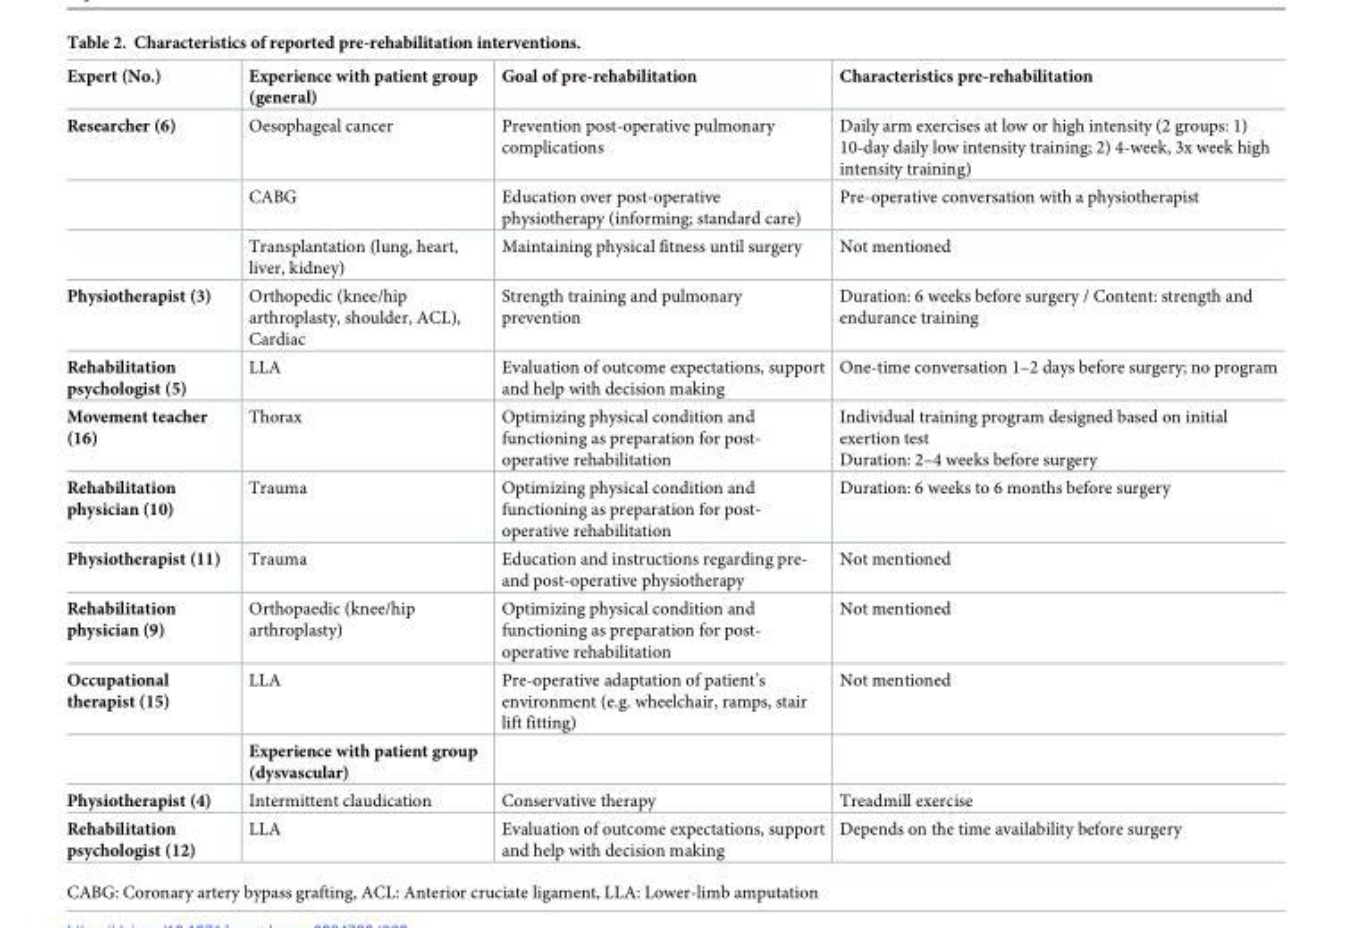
<table><tbody><tr><td>Expert (No.)</td><td>Experience with patient group (general)</td><td>Goal of pre-rehabilitation</td><td>Characteristics pre-rehabilitation</td></tr><tr><td rowspan="3">Researcher (6)</td><td>Oesophageal cancer</td><td>Prevention post-operative pulmonary complications</td><td>Daily arm exercises at low or high intensity (2 groups: 1) 10-day daily low intensity training; 2) 4-week, 3x week high intensity training)</td></tr><tr><td>CABG</td><td>Education over post-operative physiotherapy (informing; standard care)</td><td>Pre-operative conversation with a physiotherapist</td></tr><tr><td>Transplantation (lung, heart, liver, kidney)</td><td>Maintaining physical fitness until surgery</td><td>Not mentioned</td></tr><tr><td>Physiotherapist (3)</td><td>Orthopedic (knee/hip arthroplasty, shoulder, ACL), Cardiac</td><td>Strength training and pulmonary prevention</td><td>Duration: 6 weeks before surgery / Content: strength and endurance training</td></tr><tr><td>Rehabilitation psychologist (5)</td><td>LLA</td><td>Evaluation of outcome expectations, support and help with decision making</td><td>One-time conversation 1–2 days before surgery; no program</td></tr><tr><td>Movement teacher (16)</td><td>Thorax</td><td>Optimizing physical condition and functioning as preparation for post- operative rehabilitation</td><td>Individual training program designed based on initial exertion test Duration: 2–4 weeks before surgery</td></tr><tr><td>Rehabilitation physician (10)</td><td>Trauma</td><td>Optimizing physical condition and functioning as preparation for post- operative rehabilitation</td><td>Duration: 6 weeks to 6 months before surgery</td></tr><tr><td>Physiotherapist (11)</td><td>Trauma</td><td>Education and instructions regarding pre- and post-operative physiotherapy</td><td>Not mentioned</td></tr><tr><td>Rehabilitation physician (9)</td><td>Orthopaedic (knee/hip arthroplasty)</td><td>Optimizing physical condition and functioning as preparation for post- operative rehabilitation</td><td>Not mentioned</td></tr><tr><td rowspan="2">Occupational therapist (15)</td><td>LLA</td><td>Pre-operative adaptation of patient’s environment (e.g. wheelchair, ramps, stair lift fitting)</td><td>Not mentioned</td></tr><tr><td>Experience with patient group (dysvascular)</td><td></td><td></td></tr><tr><td>Physiotherapist (4)</td><td>Intermittent claudication</td><td>Conservative therapy</td><td>Treadmill exercise</td></tr><tr><td>Rehabilitation psychologist (12)</td><td>LLA</td><td>Evaluation of outcome expectations, support and help with decision making</td><td>Depends on the time availability before surgery</td></tr></tbody></table>